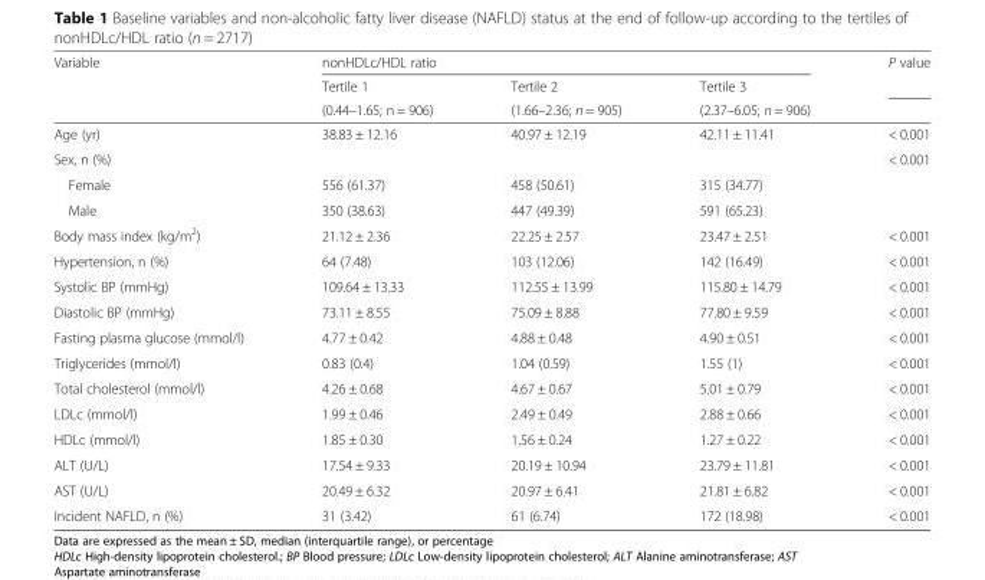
<table><thead><tr><td rowspan="3">Variable</td><td colspan="3">nonHDLc/HDL ratio</td><td rowspan="3">P value</td></tr><tr><td rowspan="2">Tertile 1 (0.44–1.65; n = 906)</td><td rowspan="2">Tertile 2 (1.66–2.36; n = 905)</td><td rowspan="2">Tertile 3 (2.37–6.05; n = 906)</td></tr><tr></tr></thead><tbody><tr><td>Age (yr)</td><td>38.83 ± 12.16</td><td>40.97 ± 12.19</td><td>42.11 ± 11.41</td><td>&lt; 0.001</td></tr><tr><td>Sex, n (%)</td><td></td><td></td><td></td><td>&lt; 0.001</td></tr><tr><td>Female</td><td>556 (61.37)</td><td>458 (50.61)</td><td>315 (34.77)</td><td></td></tr><tr><td>Male</td><td>350 (38.63)</td><td>447 (49.39)</td><td>591 (65.23)</td><td></td></tr><tr><td>Body mass index (kg/m<sup>2</sup>)</td><td>21.12 ± 2.36</td><td>22.25 ± 2.57</td><td>23.47 ± 2.51</td><td>&lt; 0.001</td></tr><tr><td>Hypertension, n (%)</td><td>64 (7.48)</td><td>103 (12.06)</td><td>142 (16.49)</td><td>&lt; 0.001</td></tr><tr><td>Systolic BP (mmHg)</td><td>109.64 ± 13.33</td><td>112.55 ± 13.99</td><td>115.80 ± 14.79</td><td>&lt; 0.001</td></tr><tr><td>Diastolic BP (mmHg)</td><td>73.11 ± 8.55</td><td>75.09 ± 8.88</td><td>77.80 ± 9.59</td><td>&lt; 0.001</td></tr><tr><td>Fasting plasma glucose (mmol/l)</td><td>4.77 ± 0.42</td><td>4.88 ± 0.48</td><td>4.90 ± 0.51</td><td>&lt; 0.001</td></tr><tr><td>Triglycerides (mmol/l)</td><td>0.83 (0.4)</td><td>1.04 (0.59)</td><td>1.55 (1)</td><td>&lt; 0.001</td></tr><tr><td>Total cholesterol (mmol/l)</td><td>4.26 ± 0.68</td><td>4.67 ± 0.67</td><td>5.01 ± 0.79</td><td>&lt; 0.001</td></tr><tr><td>LDLc (mmol/l)</td><td>1.99 ± 0.46</td><td>2.49 ± 0.49</td><td>2.88 ± 0.66</td><td>&lt; 0.001</td></tr><tr><td>HDLc (mmol/l)</td><td>1.85 ± 0.30</td><td>1.56 ± 0.24</td><td>1.27 ± 0.22</td><td>&lt; 0.001</td></tr><tr><td>ALT (U/L)</td><td>17.54 ± 9.33</td><td>20.19 ± 10.94</td><td>23.79 ± 11.81</td><td>&lt; 0.001</td></tr><tr><td>AST (U/L)</td><td>20.49 ± 6.32</td><td>20.97 ± 6.41</td><td>21.81 ± 6.82</td><td>&lt; 0.001</td></tr><tr><td>Incident NAFLD, n (%)</td><td>31 (3.42)</td><td>61 (6.74)</td><td>172 (18.98)</td><td>&lt; 0.001</td></tr></tbody></table>